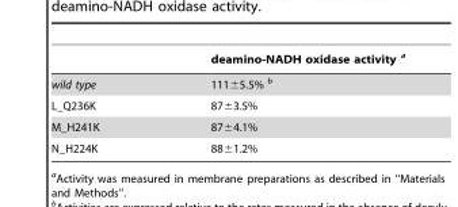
<table><thead><tr><td></td><td>deamino-NADH oxidase activity a</td></tr></thead><tbody><tr><td>wild type</td><td>111±5.5% b</td></tr><tr><td>L_Q236K</td><td>87±3.5%</td></tr><tr><td>M_H241K</td><td>87±4.1%</td></tr><tr><td>N_H224K</td><td>88±1.2%</td></tr></tbody></table>